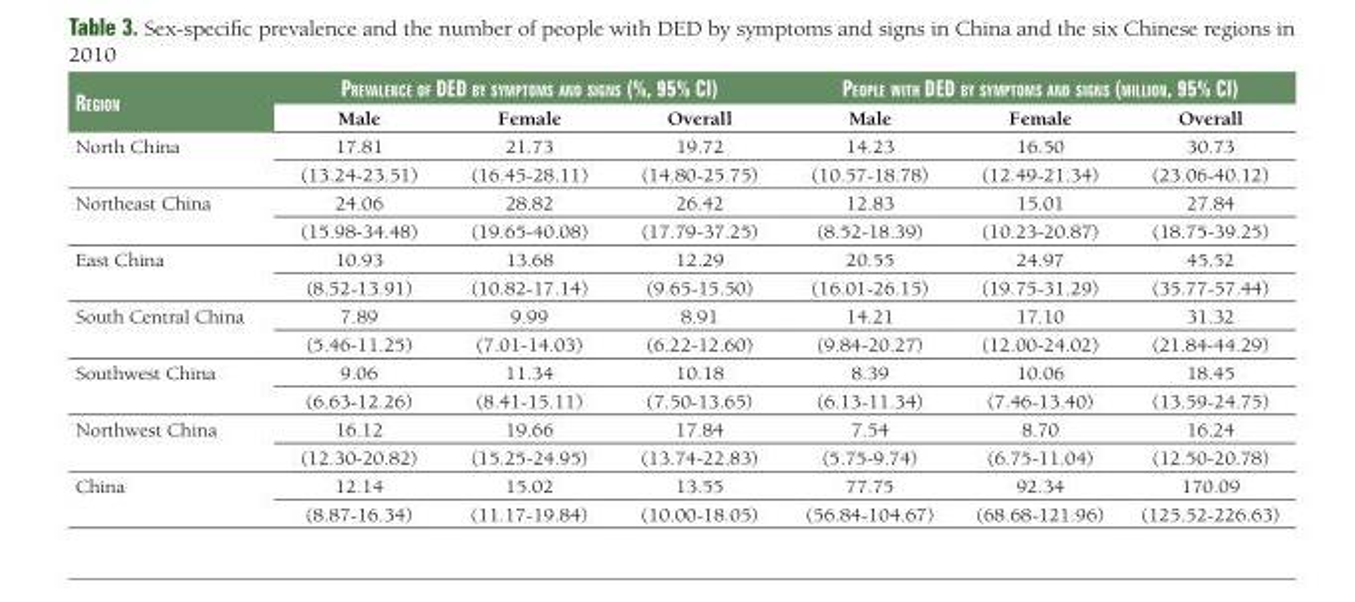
<table><thead><tr><td rowspan="2">region</td><td colspan="3">prevalenCe of ded by symptoms and signs (%, 95% Ci)</td><td colspan="3">people with ded by symptoms and signs (million, 95% Ci)</td></tr><tr><td>Male</td><td>Female</td><td>Overall</td><td>Male</td><td>Female</td><td>Overall</td></tr></thead><tbody><tr><td rowspan="2">North China</td><td>17.81</td><td>21.73</td><td>19.72</td><td>14.23</td><td>16.50</td><td>30.73</td></tr><tr><td>(13.24-23.51)</td><td>(16.45-28.11)</td><td>(14.80-25.75)</td><td>(10.57-18.78)</td><td>(12.49-21.34)</td><td>(23.06-40.12)</td></tr><tr><td rowspan="2">Northeast China</td><td>24.06</td><td>28.82</td><td>26.42</td><td>12.83</td><td>15.01</td><td>27.84</td></tr><tr><td>(15.98-34.48)</td><td>(19.65-40.08)</td><td>(17.79-37.25)</td><td>(8.52-18.39)</td><td>(10.23-20.87)</td><td>(18.75-39.25)</td></tr><tr><td rowspan="2">East China</td><td>10.93</td><td>13.68</td><td>12.29</td><td>20.55</td><td>24.97</td><td>45.52</td></tr><tr><td>(8.52-13.91)</td><td>(10.82-17.14)</td><td>(9.65-15.50)</td><td>(16.01-26.15)</td><td>(19.75-31.29)</td><td>(35.77-57.44)</td></tr><tr><td rowspan="2">South Central China</td><td>7.89</td><td>9.99</td><td>8.91</td><td>14.21</td><td>17.10</td><td>31.32</td></tr><tr><td>(5.46-11.25)</td><td>(7.01-14.03)</td><td>(6.22-12.60)</td><td>(9.84-20.27)</td><td>(12.00-24.02)</td><td>(21.84-44.29)</td></tr><tr><td rowspan="2">Southwest China</td><td>9.06</td><td>11.34</td><td>10.18</td><td>8.39</td><td>10.06</td><td>18.45</td></tr><tr><td>(6.63-12.26)</td><td>(8.41-15.11)</td><td>(7.50-13.65)</td><td>(6.13-11.34)</td><td>(7.46-13.40)</td><td>(13.59-24.75)</td></tr><tr><td rowspan="2">Northwest China</td><td>16.12</td><td>19.66</td><td>17.84</td><td>7.54</td><td>8.70</td><td>16.24</td></tr><tr><td>(12.30-20.82)</td><td>(15.25-24.95)</td><td>(13.74-22.83)</td><td>(5.75-9.74)</td><td>(6.75-11.04)</td><td>(12.50-20.78)</td></tr><tr><td rowspan="2">China</td><td>12.14</td><td>15.02</td><td>13.55</td><td>77.75</td><td>92.34</td><td>170.09</td></tr><tr><td>(8.87-16.34)</td><td>(11.17-19.84)</td><td>(10.00-18.05)</td><td>(56.84-104.67)</td><td>(68.68-121.96)</td><td>(125.52-226.63)</td></tr></tbody></table>